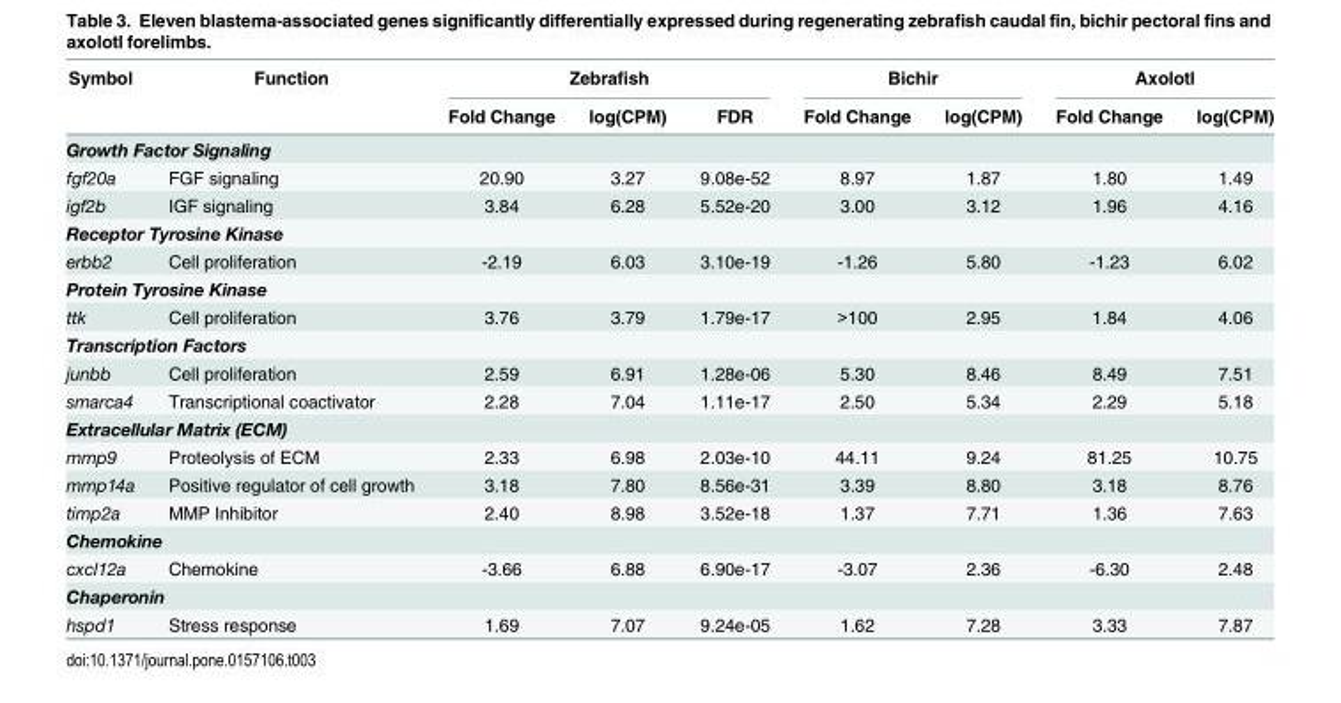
<table><thead><tr><td rowspan="2">Symbol</td><td rowspan="2">Function</td><td colspan="3">Zebrafish</td><td colspan="2">Bichir</td><td colspan="2">Axolotl</td></tr><tr><td>Fold Change</td><td>log(CPM)</td><td>FDR</td><td>Fold Change</td><td>log(CPM)</td><td>Fold Change</td><td>log(CPM)</td></tr></thead><tbody><tr><td colspan="9">Growth Factor Signaling</td></tr><tr><td>fgf20a</td><td>FGF signaling</td><td>20.90</td><td>3.27</td><td>9.08e-52</td><td>8.97</td><td>1.87</td><td>1.80</td><td>1.49</td></tr><tr><td>igf2b</td><td>IGF signaling</td><td>3.84</td><td>6.28</td><td>5.52e-20</td><td>3.00</td><td>3.12</td><td>1.96</td><td>4.16</td></tr><tr><td colspan="9">Receptor Tyrosine Kinase</td></tr><tr><td>erbb2</td><td>Cell proliferation</td><td>-2.19</td><td>6.03</td><td>3.10e-19</td><td>-1.26</td><td>5.80</td><td>-1.23</td><td>6.02</td></tr><tr><td colspan="9">Protein Tyrosine Kinase</td></tr><tr><td>ttk</td><td>Cell proliferation</td><td>3.76</td><td>3.79</td><td>1.79e-17</td><td>&gt;100</td><td>2.95</td><td>1.84</td><td>4.06</td></tr><tr><td colspan="9">Transcription Factors</td></tr><tr><td>junbb</td><td>Cell proliferation</td><td>2.59</td><td>6.91</td><td>1.28e-06</td><td>5.30</td><td>8.46</td><td>8.49</td><td>7.51</td></tr><tr><td>smarca4</td><td>Transcriptional coactivator</td><td>2.28</td><td>7.04</td><td>1.11e-17</td><td>2.50</td><td>5.34</td><td>2.29</td><td>5.18</td></tr><tr><td colspan="9">Extracellular Matrix (ECM)</td></tr><tr><td>mmp9</td><td>Proteolysis of ECM</td><td>2.33</td><td>6.98</td><td>2.03e-10</td><td>44.11</td><td>9.24</td><td>81.25</td><td>10.75</td></tr><tr><td>mmp14a</td><td>Positive regulator of cell growth</td><td>3.18</td><td>7.80</td><td>8.56e-31</td><td>3.39</td><td>8.80</td><td>3.18</td><td>8.76</td></tr><tr><td>timp2a</td><td>MMP Inhibitor</td><td>2.40</td><td>8.98</td><td>3.52e-18</td><td>1.37</td><td>7.71</td><td>1.36</td><td>7.63</td></tr><tr><td colspan="9">Chemokine</td></tr><tr><td>cxcl12a</td><td>Chemokine</td><td>-3.66</td><td>6.88</td><td>6.90e-17</td><td>-3.07</td><td>2.36</td><td>-6.30</td><td>2.48</td></tr><tr><td colspan="9">Chaperonin</td></tr><tr><td>hspd1</td><td>Stress response</td><td>1.69</td><td>7.07</td><td>9.24e-05</td><td>1.62</td><td>7.28</td><td>3.33</td><td>7.87</td></tr></tbody></table>